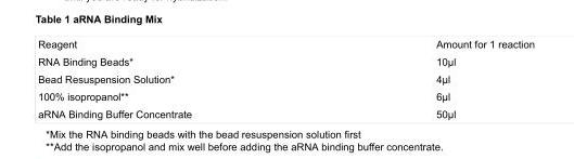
<table><tbody><tr><td>Reagent</td><td>Amount for 1 reaction</td></tr><tr><td>RNA Binding Beads*</td><td>10µl</td></tr><tr><td>Bead Resuspension Solution*</td><td>4µl</td></tr><tr><td>100% isopropanol**</td><td>6µl</td></tr><tr><td>aRNA Binding Buffer Concentrate</td><td>50µl</td></tr></tbody></table>